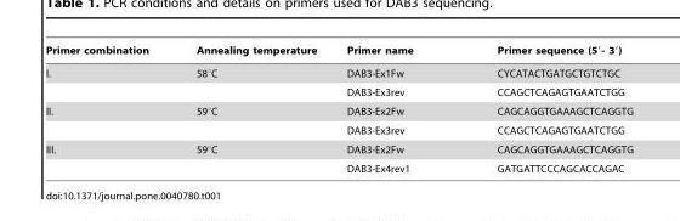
<table><thead><tr><td>Primer combination</td><td>Annealing temperature</td><td>Primer name</td><td>Primer sequence (5′- 3′)</td></tr></thead><tbody><tr><td rowspan="2">I.</td><td>58°C</td><td>DAB3-Ex1Fw</td><td>CYCATACTGATGCTGTCTGC</td></tr><tr><td></td><td>DAB3-Ex3rev</td><td>CCAGCTCAGAGTGAATCTGG</td></tr><tr><td rowspan="2">II.</td><td>59°C</td><td>DAB3-Ex2Fw</td><td>CAGCAGGTGAAAGCTCAGGTG</td></tr><tr><td></td><td>DAB3-Ex3rev</td><td>CCAGCTCAGAGTGAATCTGG</td></tr><tr><td rowspan="2">III.</td><td>59°C</td><td>DAB3-Ex2Fw</td><td>CAGCAGGTGAAAGCTCAGGTG</td></tr><tr><td></td><td>DAB3-Ex4rev1</td><td>GATGATTCCCAGCACCAGAC</td></tr></tbody></table>